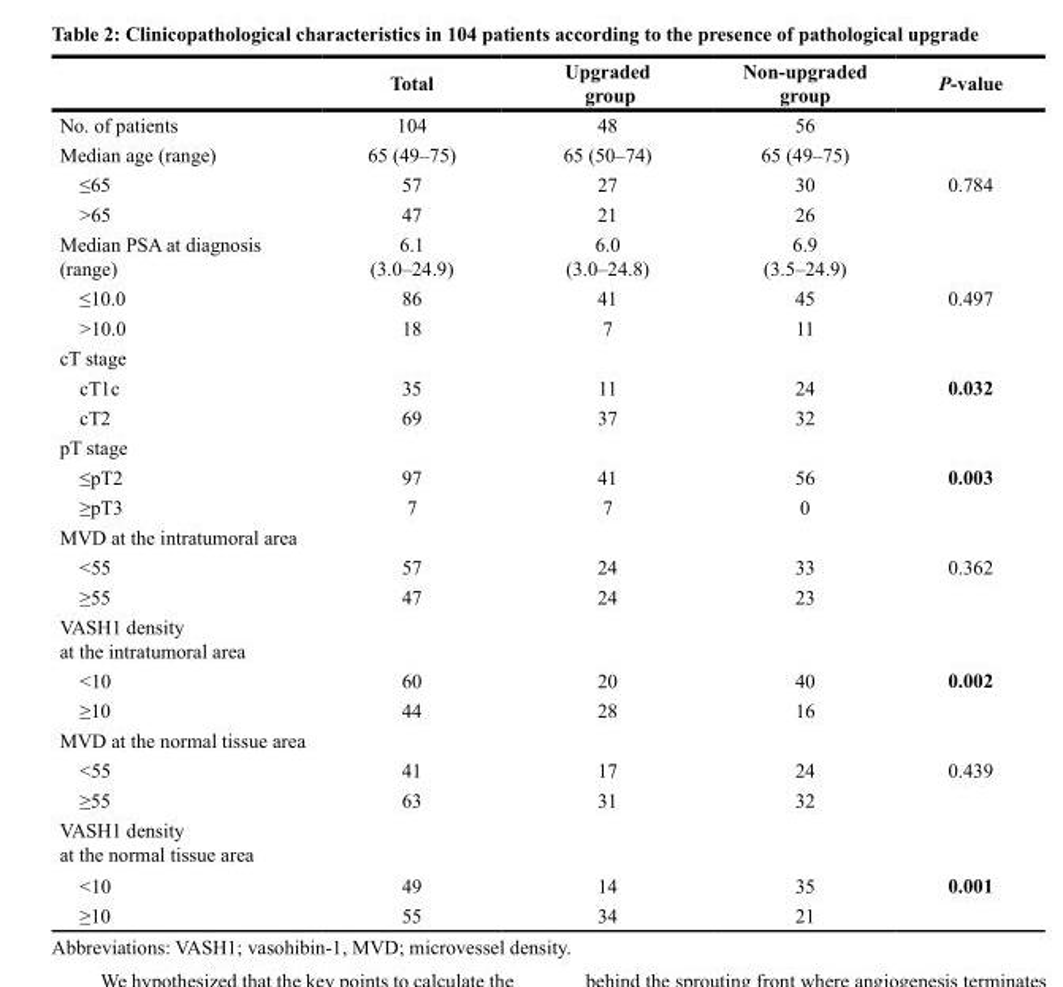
<table><thead><tr><td></td><td>Total</td><td>Upgraded group</td><td>Non-upgraded group</td><td>P-value</td></tr></thead><tbody><tr><td>No. of patients</td><td>104</td><td>48</td><td>56</td><td></td></tr><tr><td>Median age (range)</td><td>65 (49–75)</td><td>65 (50–74)</td><td>65 (49–75)</td><td></td></tr><tr><td>≤65</td><td>57</td><td>27</td><td>30</td><td>0.784</td></tr><tr><td>&gt;65</td><td>47</td><td>21</td><td>26</td><td></td></tr><tr><td>Median PSA at diagnosis (range)</td><td>6.1 (3.0–24.9)</td><td>6.0 (3.0–24.8)</td><td>6.9 (3.5–24.9)</td><td></td></tr><tr><td>≤10.0</td><td>86</td><td>41</td><td>45</td><td>0.497</td></tr><tr><td>&gt;10.0</td><td>18</td><td>7</td><td>11</td><td></td></tr><tr><td colspan="5">cT stage</td></tr><tr><td>cT1c</td><td>35</td><td>11</td><td>24</td><td>0.032</td></tr><tr><td>cT2</td><td>69</td><td>37</td><td>32</td><td></td></tr><tr><td colspan="5">pT stage</td></tr><tr><td>≤pT2</td><td>97</td><td>41</td><td>56</td><td>0.003</td></tr><tr><td>≥pT3</td><td>7</td><td>7</td><td>0</td><td></td></tr><tr><td colspan="5">MVD at the intratumoral area</td></tr><tr><td>&lt;55</td><td>57</td><td>24</td><td>33</td><td>0.362</td></tr><tr><td>≥55</td><td>47</td><td>24</td><td>23</td><td></td></tr><tr><td colspan="5">VASH1 density at the intratumoral area</td></tr><tr><td>&lt;10</td><td>60</td><td>20</td><td>40</td><td>0.002</td></tr><tr><td>≥10</td><td>44</td><td>28</td><td>16</td><td></td></tr><tr><td colspan="5">MVD at the normal tissue area</td></tr><tr><td>&lt;55</td><td>41</td><td>17</td><td>24</td><td>0.439</td></tr><tr><td>≥55</td><td>63</td><td>31</td><td>32</td><td></td></tr><tr><td colspan="5">VASH1 density at the normal tissue area</td></tr><tr><td>&lt;10</td><td>49</td><td>14</td><td>35</td><td>0.001</td></tr><tr><td>≥10</td><td>55</td><td>34</td><td>21</td><td></td></tr></tbody></table>